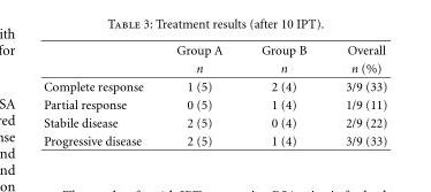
<table><thead><tr><td rowspan="2"></td><td rowspan="2">Group A n</td><td rowspan="2">Group B n</td><td rowspan="2">Overall n (%)</td></tr><tr></tr></thead><tbody><tr><td>Complete response</td><td>1 (5)</td><td>2 (4)</td><td>3/9 (33)</td></tr><tr><td>Partial response</td><td>0 (5)</td><td>1 (4)</td><td>1/9 (11)</td></tr><tr><td>Stabile disease</td><td>2 (5)</td><td>0 (4)</td><td>2/9 (22)</td></tr><tr><td>Progressive disease</td><td>2 (5)</td><td>1 (4)</td><td>3/9 (33)</td></tr></tbody></table>